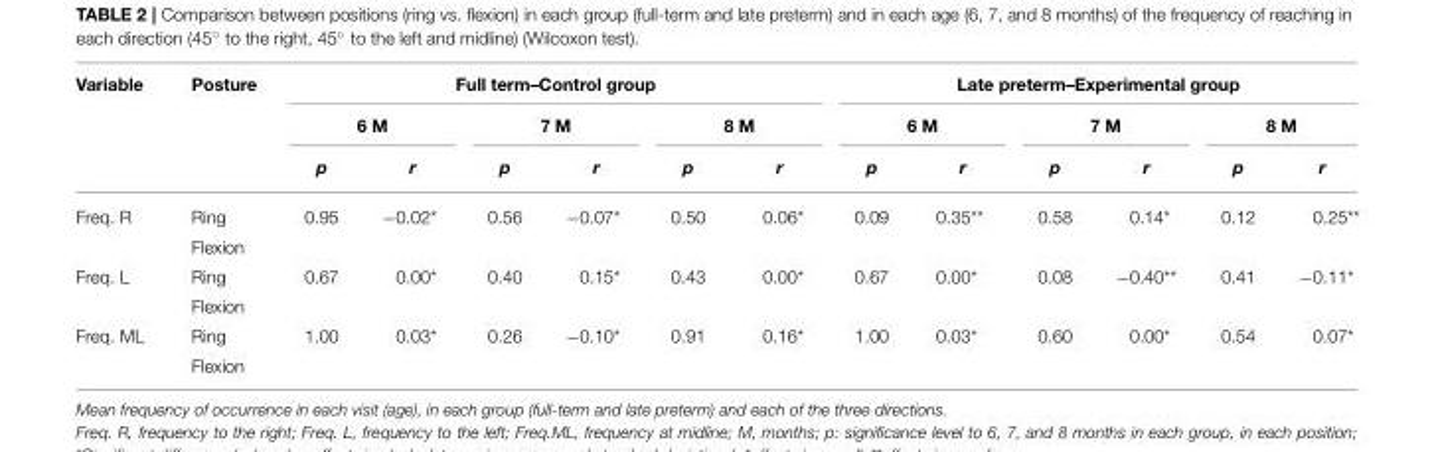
<table><thead><tr><td rowspan="3">Variable</td><td rowspan="3">Posture</td><td colspan="6">Full term–Control group</td><td colspan="6">Late preterm–Experimental group</td></tr><tr><td colspan="2">6 M</td><td colspan="2">7 M</td><td colspan="2">8 M</td><td colspan="2">6 M</td><td colspan="2">7 M</td><td colspan="2">8 M</td></tr><tr><td>p</td><td>r</td><td>p</td><td>r</td><td>p</td><td>r</td><td>p</td><td>r</td><td>p</td><td>r</td><td>p</td><td>r</td></tr></thead><tbody><tr><td rowspan="2">Freq. R</td><td>Ring</td><td>0.95</td><td>−0.02*</td><td>0.56</td><td>−0.07*</td><td>0.50</td><td>0.06*</td><td>0.09</td><td>0.35**</td><td>0.58</td><td>0.14*</td><td>0.12</td><td>0.25**</td></tr><tr><td>Flexion</td><td></td><td></td><td></td><td></td><td></td><td></td><td></td><td></td><td></td><td></td><td></td><td></td></tr><tr><td rowspan="2">Freq. L</td><td>Ring</td><td>0.67</td><td>0.00*</td><td>0.40</td><td>0.15*</td><td>0.43</td><td>0.00*</td><td>0.67</td><td>0.00*</td><td>0.08</td><td>−0.40**</td><td>0.41</td><td>−0.11*</td></tr><tr><td>Flexion</td><td></td><td></td><td></td><td></td><td></td><td></td><td></td><td></td><td></td><td></td><td></td><td></td></tr><tr><td rowspan="2">Freq. ML</td><td>Ring</td><td>1.00</td><td>0.03*</td><td>0.26</td><td>−0.10*</td><td>0.91</td><td>0.16*</td><td>1.00</td><td>0.03*</td><td>0.60</td><td>0.00*</td><td>0.54</td><td>0.07*</td></tr><tr><td>Flexion</td><td></td><td></td><td></td><td></td><td></td><td></td><td></td><td></td><td></td><td></td><td></td><td></td></tr></tbody></table>